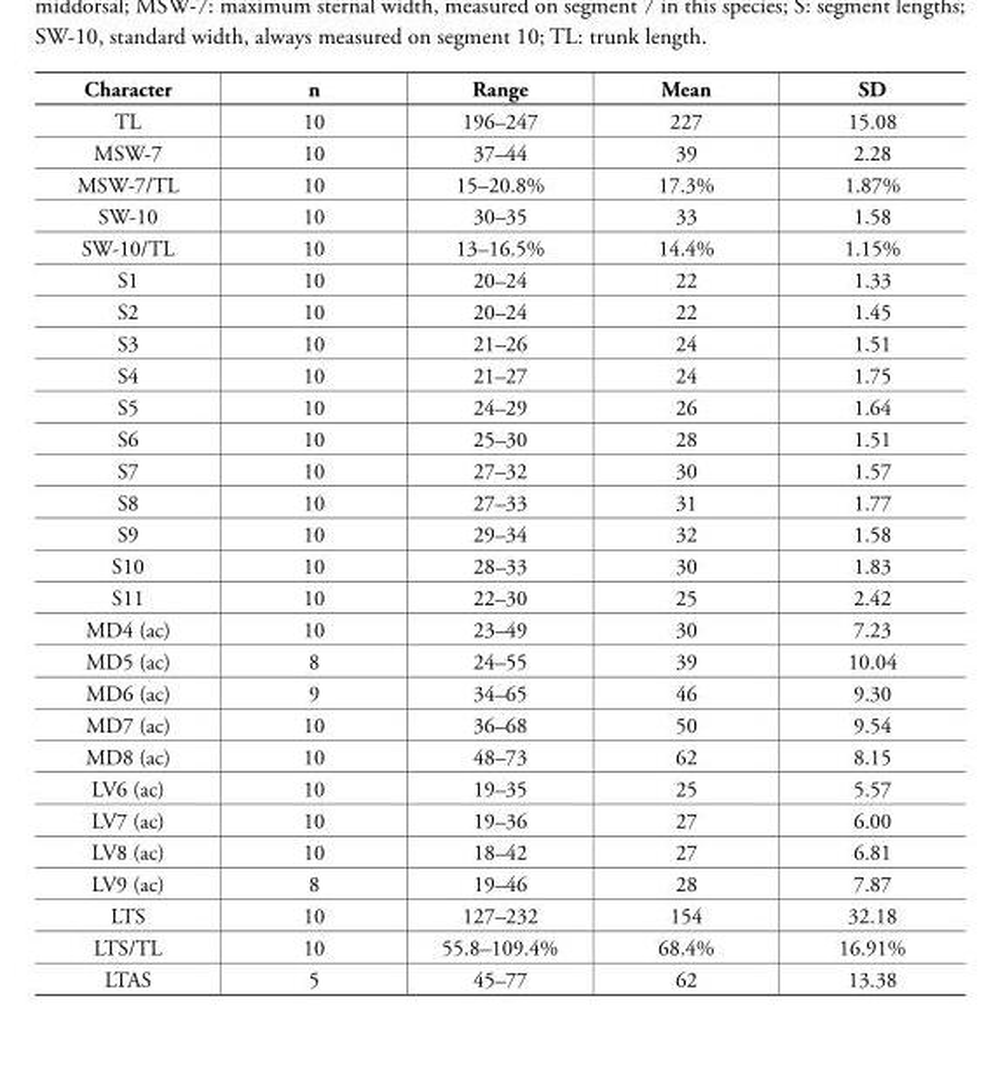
<table><thead><tr><td>Character</td><td>n</td><td>Range</td><td>Mean</td><td>SD</td></tr></thead><tbody><tr><td>TL</td><td>10</td><td>196–247</td><td>227</td><td>15.08</td></tr><tr><td>MSW-7</td><td>10</td><td>37–44</td><td>39</td><td>2.28</td></tr><tr><td>MSW-7/TL</td><td>10</td><td>15–20.8%</td><td>17.3%</td><td>1.87%</td></tr><tr><td>SW-10</td><td>10</td><td>30–35</td><td>33</td><td>1.58</td></tr><tr><td>SW-10/TL</td><td>10</td><td>13–16.5%</td><td>14.4%</td><td>1.15%</td></tr><tr><td>S1</td><td>10</td><td>20–24</td><td>22</td><td>1.33</td></tr><tr><td>S2</td><td>10</td><td>20–24</td><td>22</td><td>1.45</td></tr><tr><td>S3</td><td>10</td><td>21–26</td><td>24</td><td>1.51</td></tr><tr><td>S4</td><td>10</td><td>21–27</td><td>24</td><td>1.75</td></tr><tr><td>S5</td><td>10</td><td>24–29</td><td>26</td><td>1.64</td></tr><tr><td>S6</td><td>10</td><td>25–30</td><td>28</td><td>1.51</td></tr><tr><td>S7</td><td>10</td><td>27–32</td><td>30</td><td>1.57</td></tr><tr><td>S8</td><td>10</td><td>27–33</td><td>31</td><td>1.77</td></tr><tr><td>S9</td><td>10</td><td>29–34</td><td>32</td><td>1.58</td></tr><tr><td>S10</td><td>10</td><td>28–33</td><td>30</td><td>1.83</td></tr><tr><td>S11</td><td>10</td><td>22–30</td><td>25</td><td>2.42</td></tr><tr><td>MD4 (ac)</td><td>10</td><td>23–49</td><td>30</td><td>7.23</td></tr><tr><td>MD5 (ac)</td><td>8</td><td>24–55</td><td>39</td><td>10.04</td></tr><tr><td>MD6 (ac)</td><td>9</td><td>34–65</td><td>46</td><td>9.30</td></tr><tr><td>MD7 (ac)</td><td>10</td><td>36–68</td><td>50</td><td>9.54</td></tr><tr><td>MD8 (ac)</td><td>10</td><td>48–73</td><td>62</td><td>8.15</td></tr><tr><td>LV6 (ac)</td><td>10</td><td>19–35</td><td>25</td><td>5.57</td></tr><tr><td>LV7 (ac)</td><td>10</td><td>19–36</td><td>27</td><td>6.00</td></tr><tr><td>LV8 (ac)</td><td>10</td><td>18–42</td><td>27</td><td>6.81</td></tr><tr><td>LV9 (ac)</td><td>8</td><td>19–46</td><td>28</td><td>7.87</td></tr><tr><td>LTS</td><td>10</td><td>127–232</td><td>154</td><td>32.18</td></tr><tr><td>LTS/TL</td><td>10</td><td>55.8–109.4%</td><td>68.4%</td><td>16.91%</td></tr><tr><td>LTAS</td><td>5</td><td>45–77</td><td>62</td><td>13.38</td></tr></tbody></table>